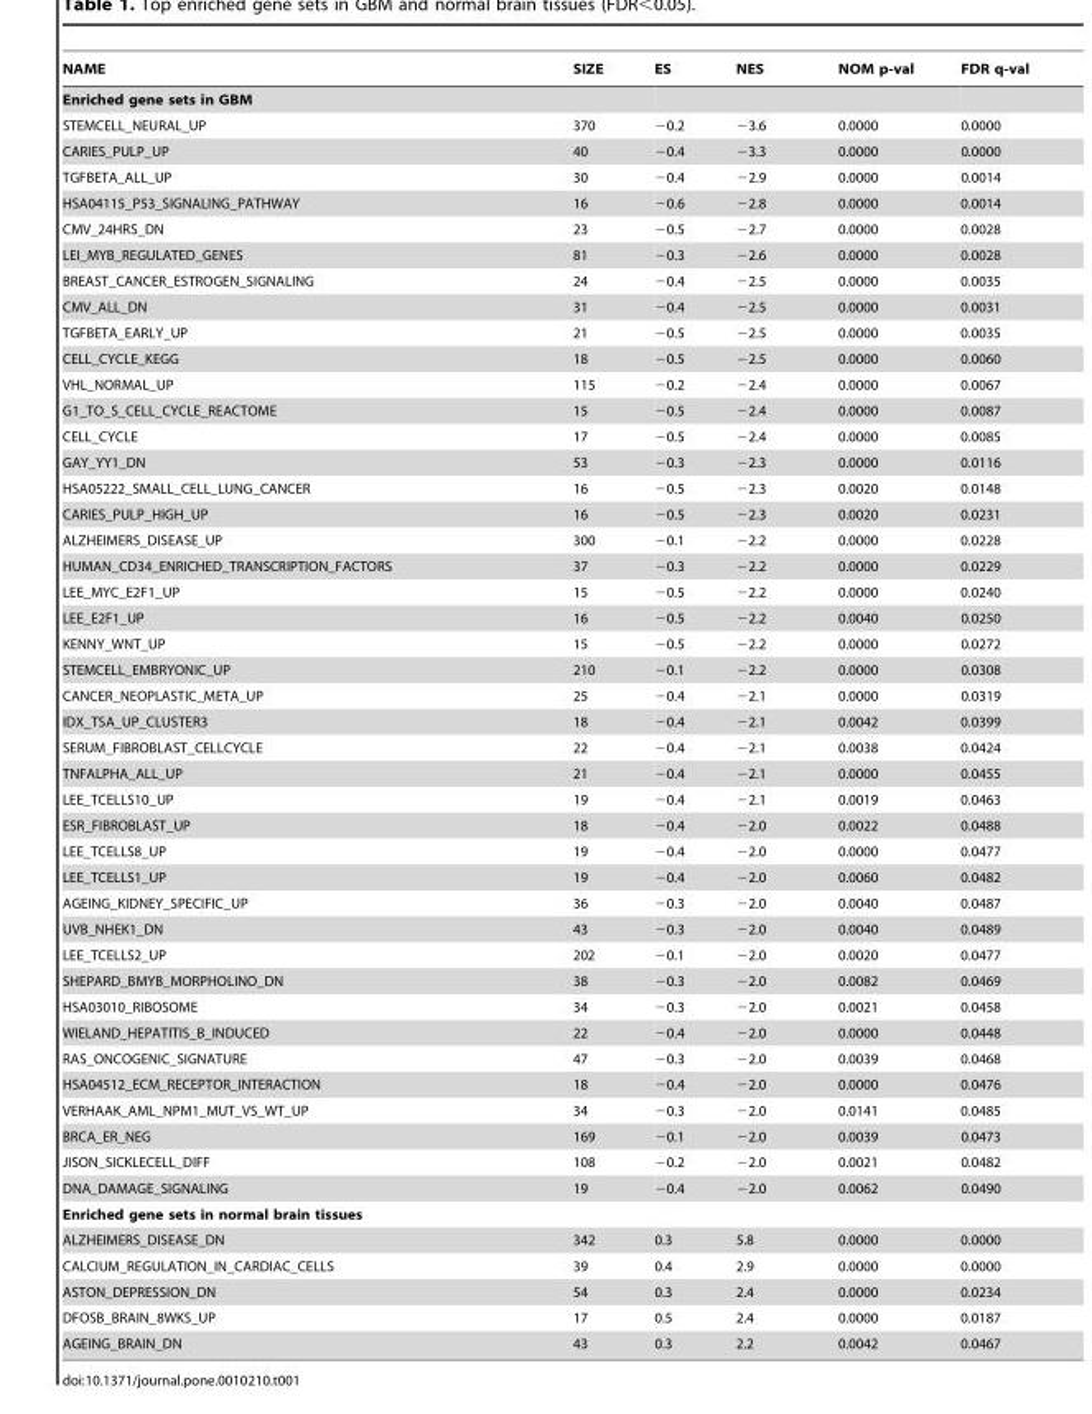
<table><thead><tr><td>NAME</td><td>SIZE</td><td>ES</td><td>NES</td><td>NOM p-val</td><td>FDR q-val</td></tr></thead><tbody><tr><td colspan="6">Enriched gene sets in GBM</td></tr><tr><td>STEMCELL_NEURAL_UP</td><td>370</td><td>−0.2</td><td>−3.6</td><td>0.0000</td><td>0.0000</td></tr><tr><td>CARIES_PULP_UP</td><td>40</td><td>−0.4</td><td>−3.3</td><td>0.0000</td><td>0.0000</td></tr><tr><td>TGFBETA_ALL_UP</td><td>30</td><td>−0.4</td><td>−2.9</td><td>0.0000</td><td>0.0014</td></tr><tr><td>HSA04115_P53_SIGNALING_PATHWAY</td><td>16</td><td>−0.6</td><td>−2.8</td><td>0.0000</td><td>0.0014</td></tr><tr><td>CMV_24HRS_DN</td><td>23</td><td>−0.5</td><td>−2.7</td><td>0.0000</td><td>0.0028</td></tr><tr><td>LEI_MYB_REGULATED_GENES</td><td>81</td><td>−0.3</td><td>−2.6</td><td>0.0000</td><td>0.0028</td></tr><tr><td>BREAST_CANCER_ESTROGEN_SIGNALING</td><td>24</td><td>−0.4</td><td>−2.5</td><td>0.0000</td><td>0.0035</td></tr><tr><td>CMV_ALL_DN</td><td>31</td><td>−0.4</td><td>−2.5</td><td>0.0000</td><td>0.0031</td></tr><tr><td>TGFBETA_EARLY_UP</td><td>21</td><td>−0.5</td><td>−2.5</td><td>0.0000</td><td>0.0035</td></tr><tr><td>CELL_CYCLE_KEGG</td><td>18</td><td>−0.5</td><td>−2.5</td><td>0.0000</td><td>0.0060</td></tr><tr><td>VHL_NORMAL_UP</td><td>115</td><td>−0.2</td><td>−2.4</td><td>0.0000</td><td>0.0067</td></tr><tr><td>G1_TO_S_CELL_CYCLE_REACTOME</td><td>15</td><td>−0.5</td><td>−2.4</td><td>0.0000</td><td>0.0087</td></tr><tr><td>CELL_CYCLE</td><td>17</td><td>−0.5</td><td>−2.4</td><td>0.0000</td><td>0.0085</td></tr><tr><td>GAY_YY1_DN</td><td>53</td><td>−0.3</td><td>−2.3</td><td>0.0000</td><td>0.0116</td></tr><tr><td>HSA05222_SMALL_CELL_LUNG_CANCER</td><td>16</td><td>−0.5</td><td>−2.3</td><td>0.0020</td><td>0.0148</td></tr><tr><td>CARIES_PULP_HIGH_UP</td><td>16</td><td>−0.5</td><td>−2.3</td><td>0.0020</td><td>0.0231</td></tr><tr><td>ALZHEIMERS_DISEASE_UP</td><td>300</td><td>−0.1</td><td>−2.2</td><td>0.0000</td><td>0.0228</td></tr><tr><td>HUMAN_CD34_ENRICHED_TRANSCRIPTION_FACTORS</td><td>37</td><td>−0.3</td><td>−2.2</td><td>0.0000</td><td>0.0229</td></tr><tr><td>LEE_MYC_E2F1_UP</td><td>15</td><td>−0.5</td><td>−2.2</td><td>0.0000</td><td>0.0240</td></tr><tr><td>LEE_E2F1_UP</td><td>16</td><td>−0.5</td><td>−2.2</td><td>0.0040</td><td>0.0250</td></tr><tr><td>KENNY_WNT_UP</td><td>15</td><td>−0.5</td><td>−2.2</td><td>0.0000</td><td>0.0272</td></tr><tr><td>STEMCELL_EMBRYONIC_UP</td><td>210</td><td>−0.1</td><td>−2.2</td><td>0.0000</td><td>0.0308</td></tr><tr><td>CANCER_NEOPLASTIC_META_UP</td><td>25</td><td>−0.4</td><td>−2.1</td><td>0.0000</td><td>0.0319</td></tr><tr><td>IDX_TSA_UP_CLUSTER3</td><td>18</td><td>−0.4</td><td>−2.1</td><td>0.0042</td><td>0.0399</td></tr><tr><td>SERUM_FIBROBLAST_CELLCYCLE</td><td>22</td><td>−0.4</td><td>−2.1</td><td>0.0038</td><td>0.0424</td></tr><tr><td>TNFALPHA_ALL_UP</td><td>21</td><td>−0.4</td><td>−2.1</td><td>0.0000</td><td>0.0455</td></tr><tr><td>LEE_TCELLS10_UP</td><td>19</td><td>−0.4</td><td>−2.1</td><td>0.0019</td><td>0.0463</td></tr><tr><td>ESR_FIBROBLAST_UP</td><td>18</td><td>−0.4</td><td>−2.0</td><td>0.0022</td><td>0.0488</td></tr><tr><td>LEE_TCELLS8_UP</td><td>19</td><td>−0.4</td><td>−2.0</td><td>0.0000</td><td>0.0477</td></tr><tr><td>LEE_TCELLS1_UP</td><td>19</td><td>−0.4</td><td>−2.0</td><td>0.0060</td><td>0.0482</td></tr><tr><td>AGEING_KIDNEY_SPECIFIC_UP</td><td>36</td><td>−0.3</td><td>−2.0</td><td>0.0040</td><td>0.0487</td></tr><tr><td>UVB_NHEK1_DN</td><td>43</td><td>−0.3</td><td>−2.0</td><td>0.0040</td><td>0.0489</td></tr><tr><td>LEE_TCELLS2_UP</td><td>202</td><td>−0.1</td><td>−2.0</td><td>0.0020</td><td>0.0477</td></tr><tr><td>SHEPARD_BMYB_MORPHOLINO_DN</td><td>38</td><td>−0.3</td><td>−2.0</td><td>0.0082</td><td>0.0469</td></tr><tr><td>HSA03010_RIBOSOME</td><td>34</td><td>−0.3</td><td>−2.0</td><td>0.0021</td><td>0.0458</td></tr><tr><td>WIELAND_HEPATITIS_B_INDUCED</td><td>22</td><td>−0.4</td><td>−2.0</td><td>0.0000</td><td>0.0448</td></tr><tr><td>RAS_ONCOGENIC_SIGNATURE</td><td>47</td><td>−0.3</td><td>−2.0</td><td>0.0039</td><td>0.0468</td></tr><tr><td>HSA04512_ECM_RECEPTOR_INTERACTION</td><td>18</td><td>−0.4</td><td>−2.0</td><td>0.0000</td><td>0.0476</td></tr><tr><td>VERHAAK_AML_NPM1_MUT_VS_WT_UP</td><td>34</td><td>−0.3</td><td>−2.0</td><td>0.0141</td><td>0.0485</td></tr><tr><td>BRCA_ER_NEG</td><td>169</td><td>−0.1</td><td>−2.0</td><td>0.0039</td><td>0.0473</td></tr><tr><td>JISON_SICKLECELL_DIFF</td><td>108</td><td>−0.2</td><td>−2.0</td><td>0.0021</td><td>0.0482</td></tr><tr><td>DNA_DAMAGE_SIGNALING</td><td>19</td><td>−0.4</td><td>−2.0</td><td>0.0062</td><td>0.0490</td></tr><tr><td colspan="6">Enriched gene sets in normal brain tissues</td></tr><tr><td>ALZHEIMERS_DISEASE_DN</td><td>342</td><td>0.3</td><td>5.8</td><td>0.0000</td><td>0.0000</td></tr><tr><td>CALCIUM_REGULATION_IN_CARDIAC_CELLS</td><td>39</td><td>0.4</td><td>2.9</td><td>0.0000</td><td>0.0000</td></tr><tr><td>ASTON_DEPRESSION_DN</td><td>54</td><td>0.3</td><td>2.4</td><td>0.0000</td><td>0.0234</td></tr><tr><td>DFOSB_BRAIN_8WKS_UP</td><td>17</td><td>0.5</td><td>2.4</td><td>0.0000</td><td>0.0187</td></tr><tr><td>AGEING_BRAIN_DN</td><td>43</td><td>0.3</td><td>2.2</td><td>0.0042</td><td>0.0467</td></tr></tbody></table>